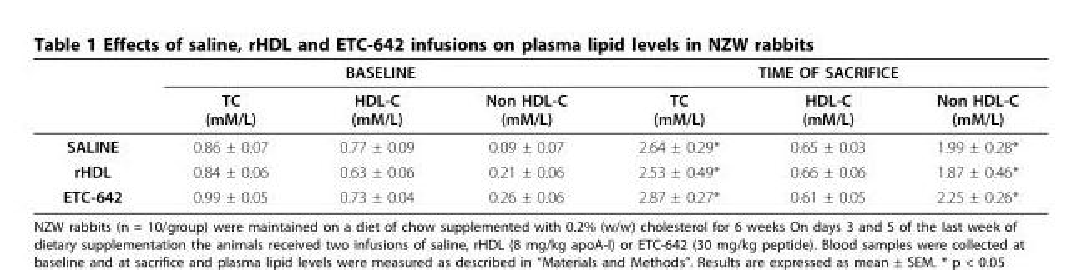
<table><thead><tr><td rowspan="2"></td><td colspan="3">BASELINE</td><td colspan="3">TIME OF SACRIFICE</td></tr><tr><td>TC (mM/L)</td><td>HDL-C (mM/L)</td><td>Non HDL-C (mM/L)</td><td>TC (mM/L)</td><td>HDL-C (mM/L)</td><td>Non HDL-C (mM/L)</td></tr></thead><tbody><tr><td>SALINE</td><td>0.86 ± 0.07</td><td>0.77 ± 0.09</td><td>0.09 ± 0.07</td><td>2.64 ± 0.29*</td><td>0.65 ± 0.03</td><td>1.99 ± 0.28*</td></tr><tr><td>rHDL</td><td>0.84 ± 0.06</td><td>0.63 ± 0.06</td><td>0.21 ± 0.06</td><td>2.53 ± 0.49*</td><td>0.66 ± 0.06</td><td>1.87 ± 0.46*</td></tr><tr><td>ETC-642</td><td>0.99 ± 0.05</td><td>0.73 ± 0.04</td><td>0.26 ± 0.06</td><td>2.87 ± 0.27*</td><td>0.61 ± 0.05</td><td>2.25 ± 0.26*</td></tr></tbody></table>